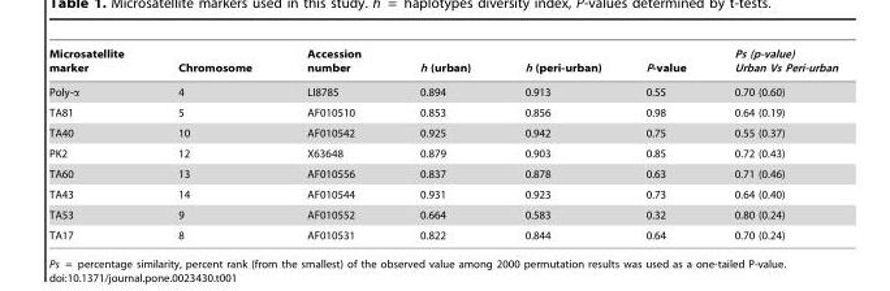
<table><thead><tr><td>Microsatellite marker</td><td>Chromosome</td><td>Accession number</td><td>h (urban)</td><td>h (peri-urban)</td><td>P-value</td><td>Ps (p-value) Urban Vs Peri-urban</td></tr></thead><tbody><tr><td>Poly-α</td><td>4</td><td>LI8785</td><td>0.894</td><td>0.913</td><td>0.55</td><td>0.70 (0.60)</td></tr><tr><td>TA81</td><td>5</td><td>AF010510</td><td>0.853</td><td>0.856</td><td>0.98</td><td>0.64 (0.19)</td></tr><tr><td>TA40</td><td>10</td><td>AF010542</td><td>0.925</td><td>0.942</td><td>0.75</td><td>0.55 (0.37)</td></tr><tr><td>PK2</td><td>12</td><td>X63648</td><td>0.879</td><td>0.903</td><td>0.85</td><td>0.72 (0.43)</td></tr><tr><td>TA60</td><td>13</td><td>AF010556</td><td>0.837</td><td>0.878</td><td>0.63</td><td>0.71 (0.46)</td></tr><tr><td>TA43</td><td>14</td><td>AF010544</td><td>0.931</td><td>0.923</td><td>0.73</td><td>0.64 (0.40)</td></tr><tr><td>TA53</td><td>9</td><td>AF010552</td><td>0.664</td><td>0.583</td><td>0.32</td><td>0.80 (0.24)</td></tr><tr><td>TA17</td><td>8</td><td>AF010531</td><td>0.822</td><td>0.844</td><td>0.64</td><td>0.70 (0.24)</td></tr></tbody></table>